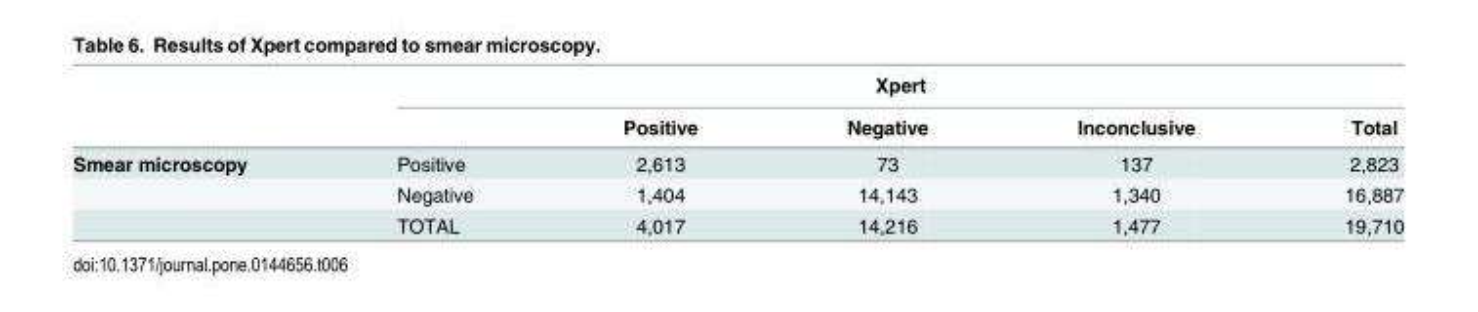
<table><thead><tr><td rowspan="2"></td><td colspan="5">Xpert</td></tr><tr><td></td><td>Positive</td><td>Negative</td><td>Inconclusive</td><td>Total</td></tr></thead><tbody><tr><td rowspan="3">Smear microscopy</td><td>Positive</td><td>2,613</td><td>73</td><td>137</td><td>2,823</td></tr><tr><td>Negative</td><td>1,404</td><td>14,143</td><td>1,340</td><td>16,887</td></tr><tr><td>TOTAL</td><td>4,017</td><td>14,216</td><td>1,477</td><td>19,710</td></tr></tbody></table>